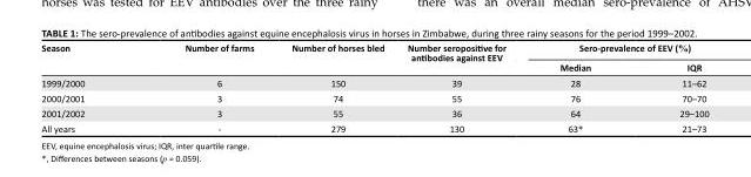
<table><thead><tr><td rowspan="2">Season</td><td rowspan="2">Number of farms</td><td rowspan="2">Number of horses bled</td><td rowspan="2">Number seropositive for antibodies against EEV</td><td colspan="2">Sero-prevalence of EEV (%)</td></tr><tr><td>Median</td><td>IQR</td></tr></thead><tbody><tr><td>1999/2000</td><td>6</td><td>150</td><td>39</td><td>28</td><td>11–62</td></tr><tr><td>2000/2001</td><td>3</td><td>74</td><td>55</td><td>76</td><td>70–70</td></tr><tr><td>2001/2002</td><td>3</td><td>55</td><td>36</td><td>64</td><td>29–100</td></tr><tr><td>All years</td><td>-</td><td>279</td><td>130</td><td>63*</td><td>21–73</td></tr></tbody></table>